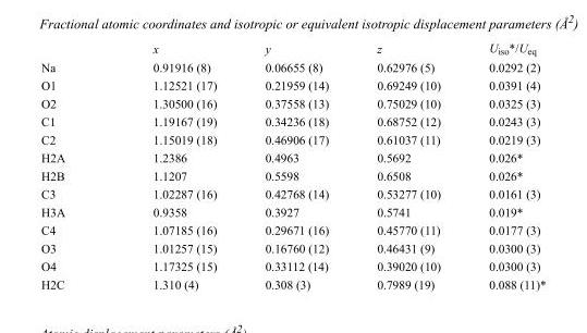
<table><thead><tr><td></td><td>x</td><td>y</td><td>z</td><td>U<sub>iso</sub>*/U<sub>eq</sub></td></tr></thead><tbody><tr><td>Na</td><td>0.91916 (8)</td><td>0.06655 (8)</td><td>0.62976 (5)</td><td>0.0292 (2)</td></tr><tr><td>O1</td><td>1.12521 (17)</td><td>0.21959 (14)</td><td>0.69249 (10)</td><td>0.0391 (4)</td></tr><tr><td>O2</td><td>1.30500 (16)</td><td>0.37558 (13)</td><td>0.75029 (10)</td><td>0.0325 (3)</td></tr><tr><td>C1</td><td>1.19167 (19)</td><td>0.34236 (18)</td><td>0.68752 (12)</td><td>0.0243 (3)</td></tr><tr><td>C2</td><td>1.15019 (18)</td><td>0.46906 (17)</td><td>0.61037 (11)</td><td>0.0219 (3)</td></tr><tr><td>H2A</td><td>1.2386</td><td>0.4963</td><td>0.5692</td><td>0.026*</td></tr><tr><td>H2B</td><td>1.1207</td><td>0.5598</td><td>0.6508</td><td>0.026*</td></tr><tr><td>C3</td><td>1.02287 (16)</td><td>0.42768 (14)</td><td>0.53277 (10)</td><td>0.0161 (3)</td></tr><tr><td>H3A</td><td>0.9358</td><td>0.3927</td><td>0.5741</td><td>0.019*</td></tr><tr><td>C4</td><td>1.07185 (16)</td><td>0.29671 (16)</td><td>0.45770 (11)</td><td>0.0177 (3)</td></tr><tr><td>O3</td><td>1.01257 (15)</td><td>0.16760 (12)</td><td>0.46431 (9)</td><td>0.0300 (3)</td></tr><tr><td>O4</td><td>1.17325 (15)</td><td>0.33112 (14)</td><td>0.39020 (10)</td><td>0.0300 (3)</td></tr><tr><td>H2C</td><td>1.310 (4)</td><td>0.308 (3)</td><td>0.7989 (19)</td><td>0.088 (11)*</td></tr></tbody></table>